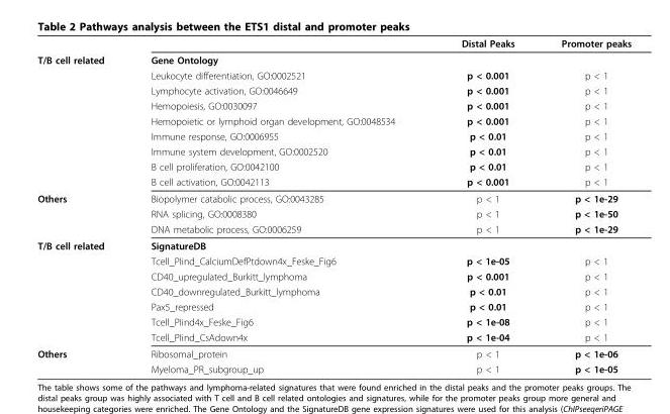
<table><thead><tr><td></td><td></td><td>Distal Peaks</td><td>Promoter peaks</td></tr></thead><tbody><tr><td rowspan="9">T/B cell related</td><td>Gene Ontology</td><td></td><td></td></tr><tr><td>Leukocyte differentiation, GO:0002521</td><td>p &lt; 0.001</td><td>p &lt; 1</td></tr><tr><td>Lymphocyte activation, GO:0046649</td><td>p &lt; 0.001</td><td>p &lt; 1</td></tr><tr><td>Hemopoiesis, GO:0030097</td><td>p &lt; 0.001</td><td>p &lt; 1</td></tr><tr><td>Hemopoietic or lymphoid organ development, GO:0048534</td><td>p &lt; 0.001</td><td>p &lt; 1</td></tr><tr><td>Immune response, GO:0006955</td><td>p &lt; 0.01</td><td>p &lt; 1</td></tr><tr><td>Immune system development, GO:0002520</td><td>p &lt; 0.01</td><td>p &lt; 1</td></tr><tr><td>B cell proliferation, GO:0042100</td><td>p &lt; 0.01</td><td>p &lt; 1</td></tr><tr><td>B cell activation, GO:0042113</td><td>p &lt; 0.001</td><td>p &lt; 1</td></tr><tr><td rowspan="3">Others</td><td>Biopolymer catabolic process, GO:0043285</td><td>p &lt; 1</td><td>p &lt; 1e-29</td></tr><tr><td>RNA splicing, GO:0008380</td><td>p &lt; 1</td><td>p &lt; 1e-50</td></tr><tr><td>DNA metabolic process, GO:0006259</td><td>p &lt; 1</td><td>p &lt; 1e-29</td></tr><tr><td rowspan="7">T/B cell related</td><td>SignatureDB</td><td></td><td></td></tr><tr><td>Tcell_PIind_CalciumDefPtdown4x_Feske_Fig6</td><td>p &lt; 1e-05</td><td>p &lt; 1</td></tr><tr><td>CD40_upregulated_Burkitt_lymphoma</td><td>p &lt; 0.001</td><td>p &lt; 1</td></tr><tr><td>CD40_downregulated_Burkitt_lymphoma</td><td>p &lt; 0.01</td><td>p &lt; 1</td></tr><tr><td>Pax5_repressed</td><td>p &lt; 0.01</td><td>p &lt; 1</td></tr><tr><td>Tcell_PIind4x_Feske_Fig6</td><td>p &lt; 1e-08</td><td>p &lt; 1</td></tr><tr><td>Tcell_PIind_CsAdown4x</td><td>p &lt; 1e-04</td><td>p &lt; 1</td></tr><tr><td rowspan="2">Others</td><td>Ribosomal_protein</td><td>p &lt; 1</td><td>p &lt; 1e-06</td></tr><tr><td>Myeloma_PR_subgroup_up</td><td>p &lt; 1</td><td>p &lt; 1e-05</td></tr></tbody></table>